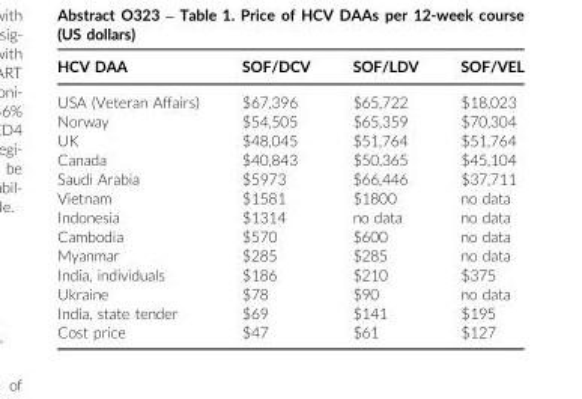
<table><thead><tr><td>HCV DAA</td><td>SOF/DCV</td><td>SOF/LDV</td><td>SOF/VEL</td></tr></thead><tbody><tr><td>USA (Veteran Affairs)</td><td>$67,396</td><td>$65,722</td><td>$18,023</td></tr><tr><td>Norway</td><td>$54,505</td><td>$65,359</td><td>$70,304</td></tr><tr><td>UK</td><td>$48,045</td><td>$51,764</td><td>$51,764</td></tr><tr><td>Canada</td><td>$40,843</td><td>$50,365</td><td>$45,104</td></tr><tr><td>Saudi Arabia</td><td>$5973</td><td>$66,446</td><td>$37,711</td></tr><tr><td>Vietnam</td><td>$1581</td><td>$1800</td><td>no data</td></tr><tr><td>Indonesia</td><td>$1314</td><td>no data</td><td>no data</td></tr><tr><td>Cambodia</td><td>$570</td><td>$600</td><td>no data</td></tr><tr><td>Myanmar</td><td>$285</td><td>$285</td><td>no data</td></tr><tr><td>India, individuals</td><td>$186</td><td>$210</td><td>$375</td></tr><tr><td>Ukraine</td><td>$78</td><td>$90</td><td>no data</td></tr><tr><td>India, state tender</td><td>$69</td><td>$141</td><td>$195</td></tr><tr><td>Cost price</td><td>$47</td><td>$61</td><td>$127</td></tr></tbody></table>